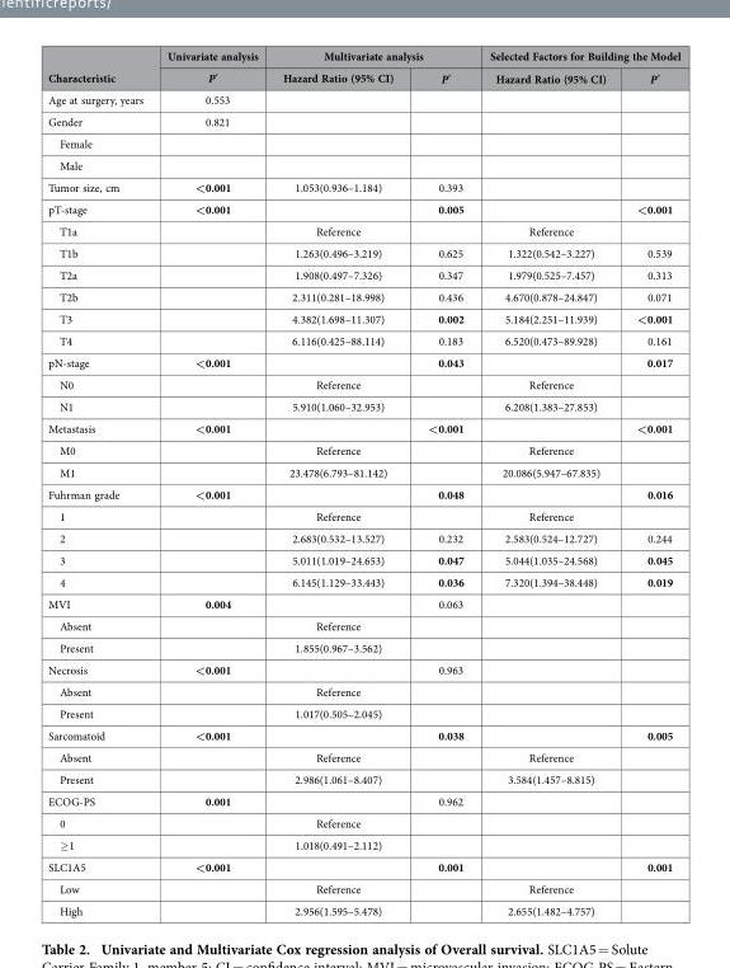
<table><thead><tr><td rowspan="2">Characteristic</td><td rowspan="2">Univariate analysis P*</td><td colspan="2">Multivariate analysis</td><td colspan="2">Selected Factors for Building the Model</td></tr><tr><td>Hazard Ratio (95% CI)</td><td>P*</td><td>Hazard Ratio (95% CI)</td><td>P*</td></tr></thead><tbody><tr><td>Age at surgery, years</td><td>0.553</td><td></td><td></td><td></td><td></td></tr><tr><td>Gender</td><td>0.821</td><td></td><td></td><td></td><td></td></tr><tr><td colspan="6">Female</td></tr><tr><td colspan="6">Male</td></tr><tr><td>Tumor size, cm</td><td>&lt;0.001</td><td>1.053(0.936–1.184)</td><td>0.393</td><td></td><td></td></tr><tr><td>pT-stage</td><td>&lt;0.001</td><td></td><td>0.005</td><td></td><td>&lt;0.001</td></tr><tr><td>T1a</td><td></td><td>Reference</td><td></td><td>Reference</td><td></td></tr><tr><td>T1b</td><td></td><td>1.263(0.496–3.219)</td><td>0.625</td><td>1.322(0.542–3.227)</td><td>0.539</td></tr><tr><td>T2a</td><td></td><td>1.908(0.497–7.326)</td><td>0.347</td><td>1.979(0.525–7.457)</td><td>0.313</td></tr><tr><td>T2b</td><td></td><td>2.311(0.281–18.998)</td><td>0.436</td><td>4.670(0.878–24.847)</td><td>0.071</td></tr><tr><td>T3</td><td></td><td>4.382(1.698–11.307)</td><td>0.002</td><td>5.184(2.251–11.939)</td><td>&lt;0.001</td></tr><tr><td>T4</td><td></td><td>6.116(0.425–88.114)</td><td>0.183</td><td>6.520(0.473–89.928)</td><td>0.161</td></tr><tr><td>pN-stage</td><td>&lt;0.001</td><td></td><td>0.043</td><td></td><td>0.017</td></tr><tr><td>N0</td><td></td><td>Reference</td><td></td><td>Reference</td><td></td></tr><tr><td>N1</td><td></td><td>5.910(1.060–32.953)</td><td></td><td>6.208(1.383–27.853)</td><td></td></tr><tr><td>Metastasis</td><td>&lt;0.001</td><td></td><td>&lt;0.001</td><td></td><td>&lt;0.001</td></tr><tr><td>M0</td><td></td><td>Reference</td><td></td><td>Reference</td><td></td></tr><tr><td>M1</td><td></td><td>23.478(6.793–81.142)</td><td></td><td>20.086(5.947–67.835)</td><td></td></tr><tr><td>Fuhrman grade</td><td>&lt;0.001</td><td></td><td>0.048</td><td></td><td>0.016</td></tr><tr><td>1</td><td></td><td>Reference</td><td></td><td>Reference</td><td></td></tr><tr><td>2</td><td></td><td>2.683(0.532–13.527)</td><td>0.232</td><td>2.583(0.524–12.727)</td><td>0.244</td></tr><tr><td>3</td><td></td><td>5.011(1.019–24.653)</td><td>0.047</td><td>5.044(1.035–24.568)</td><td>0.045</td></tr><tr><td>4</td><td></td><td>6.145(1.129–33.443)</td><td>0.036</td><td>7.320(1.394–38.448)</td><td>0.019</td></tr><tr><td>MVI</td><td>0.004</td><td></td><td>0.063</td><td></td><td></td></tr><tr><td>Absent</td><td></td><td>Reference</td><td></td><td></td><td></td></tr><tr><td>Present</td><td></td><td>1.855(0.967–3.562)</td><td></td><td></td><td></td></tr><tr><td>Necrosis</td><td>&lt;0.001</td><td></td><td>0.963</td><td></td><td></td></tr><tr><td>Absent</td><td></td><td>Reference</td><td></td><td></td><td></td></tr><tr><td>Present</td><td></td><td>1.017(0.505–2.045)</td><td></td><td></td><td></td></tr><tr><td>Sarcomatoid</td><td>&lt;0.001</td><td></td><td>0.038</td><td></td><td>0.005</td></tr><tr><td>Absent</td><td></td><td>Reference</td><td></td><td>Reference</td><td></td></tr><tr><td>Present</td><td></td><td>2.986(1.061–8.407)</td><td></td><td>3.584(1.457–8.815)</td><td></td></tr><tr><td>ECOG-PS</td><td>0.001</td><td></td><td>0.962</td><td></td><td></td></tr><tr><td>0</td><td></td><td>Reference</td><td></td><td></td><td></td></tr><tr><td>≥ 1</td><td></td><td>1.018(0.491–2.112)</td><td></td><td></td><td></td></tr><tr><td>SLC1A5</td><td>&lt;0.001</td><td></td><td>0.001</td><td></td><td>0.001</td></tr><tr><td>Low</td><td></td><td>Reference</td><td></td><td>Reference</td><td></td></tr><tr><td>High</td><td></td><td>2.956(1.595–5.478)</td><td></td><td>2.655(1.482–4.757)</td><td></td></tr></tbody></table>